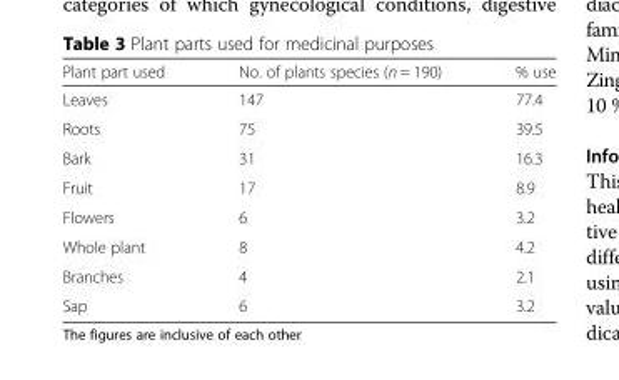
<table><thead><tr><td>Plant part used</td><td>No. of plants species (n = 190)</td><td>% use</td></tr></thead><tbody><tr><td>Leaves</td><td>147</td><td>77.4</td></tr><tr><td>Roots</td><td>75</td><td>39.5</td></tr><tr><td>Bark</td><td>31</td><td>16.3</td></tr><tr><td>Fruit</td><td>17</td><td>8.9</td></tr><tr><td>Flowers</td><td>6</td><td>3.2</td></tr><tr><td>Whole plant</td><td>8</td><td>4.2</td></tr><tr><td>Branches</td><td>4</td><td>2.1</td></tr><tr><td>Sap</td><td>6</td><td>3.2</td></tr></tbody></table>